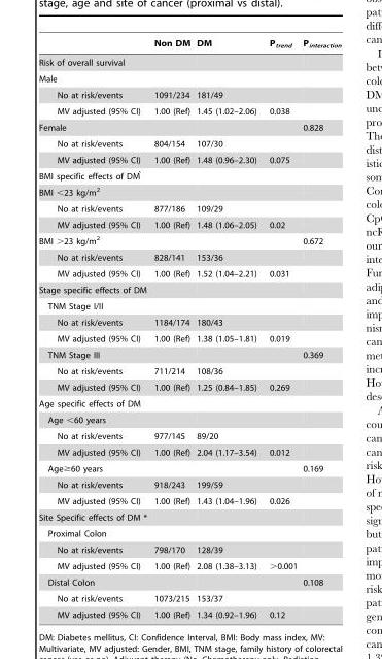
<table><thead><tr><td></td><td>Non DM</td><td>DM</td><td>P<sub>trend</sub></td><td>P<sub>interaction</sub></td></tr></thead><tbody><tr><td colspan="5">Risk of overall survival</td></tr><tr><td colspan="5">Male</td></tr><tr><td>No at risk/events</td><td>1091/234</td><td>181/49</td><td></td><td></td></tr><tr><td>MV adjusted (95% CI)</td><td>1.00 (Ref)</td><td>1.45 (1.02–2.06)</td><td>0.038</td><td></td></tr><tr><td>Female</td><td></td><td></td><td></td><td>0.828</td></tr><tr><td>No at risk/events</td><td>804/154</td><td>107/30</td><td></td><td></td></tr><tr><td>MV adjusted (95% CI)</td><td>1.00 (Ref)</td><td>1.48 (0.96–2.30)</td><td>0.075</td><td></td></tr><tr><td colspan="5">BMI specific effects of DMˆ</td></tr><tr><td colspan="5">BMI &lt;23 kg/m<sup>2</sup></td></tr><tr><td>No at risk/events</td><td>877/186</td><td>109/29</td><td></td><td></td></tr><tr><td>MV adjusted (95% CI)</td><td>1.00 (Ref)</td><td>1.48 (1.06–2.05)</td><td>0.02</td><td></td></tr><tr><td>BMI &gt;23 kg/m<sup>2</sup></td><td></td><td></td><td></td><td>0.672</td></tr><tr><td>No at risk/events</td><td>828/141</td><td>153/36</td><td></td><td></td></tr><tr><td>MV adjusted (95% CI)</td><td>1.00 (Ref)</td><td>1.52 (1.04–2.21)</td><td>0.031</td><td></td></tr><tr><td colspan="5">Stage specific effects of DM</td></tr><tr><td colspan="5">TNM Stage I/II</td></tr><tr><td>No at risk/events</td><td>1184/174</td><td>180/43</td><td></td><td></td></tr><tr><td>MV adjusted (95% CI)</td><td>1.00 (Ref)</td><td>1.38 (1.05–1.81)</td><td>0.019</td><td></td></tr><tr><td>TNM Stage III</td><td></td><td></td><td></td><td>0.369</td></tr><tr><td>No at risk/events</td><td>711/214</td><td>108/36</td><td></td><td></td></tr><tr><td>MV adjusted (95% CI)</td><td>1.00 (Ref)</td><td>1.25 (0.84–1.85)</td><td>0.269</td><td></td></tr><tr><td colspan="5">Age specific effects of DM</td></tr><tr><td colspan="5">Age &lt;60 years</td></tr><tr><td>No at risk/events</td><td>977/145</td><td>89/20</td><td></td><td></td></tr><tr><td>MV adjusted (95% CI)</td><td>1.00 (Ref)</td><td>2.04 (1.17–3.54)</td><td>0.012</td><td></td></tr><tr><td>Age≥60 years</td><td></td><td></td><td></td><td>0.169</td></tr><tr><td>No at risk/events</td><td>918/243</td><td>199/59</td><td></td><td></td></tr><tr><td>MV adjusted (95% CI)</td><td>1.00 (Ref)</td><td>1.43 (1.04–1.96)</td><td>0.026</td><td></td></tr><tr><td colspan="5">Site Specific effects of DM *</td></tr><tr><td colspan="5">Proximal Colon</td></tr><tr><td>No at risk/events</td><td>798/170</td><td>128/39</td><td></td><td></td></tr><tr><td>MV adjusted (95% CI)</td><td>1.00 (Ref)</td><td>2.08 (1.38–3.13)</td><td>&gt;0.001</td><td></td></tr><tr><td>Distal Colon</td><td></td><td></td><td></td><td>0.108</td></tr><tr><td>No at risk/events</td><td>1073/215</td><td>153/37</td><td></td><td></td></tr><tr><td>MV adjusted (95% CI)</td><td>1.00 (Ref)</td><td>1.34 (0.92–1.96)</td><td>0.12</td><td></td></tr></tbody></table>